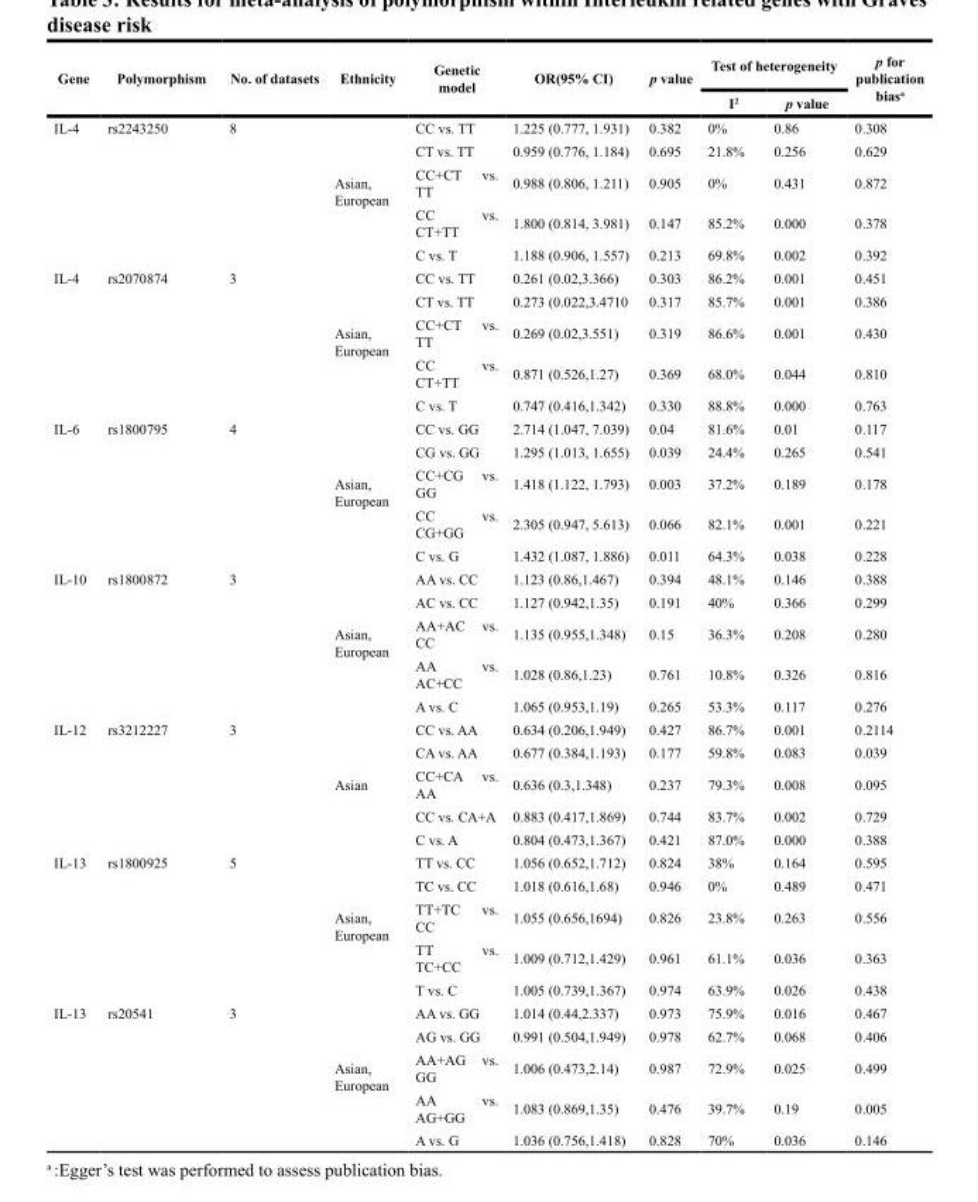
<table><thead><tr><td rowspan="2">Gene</td><td rowspan="2">Polymorphism</td><td rowspan="2">No. of datasets</td><td rowspan="2">Ethnicity</td><td rowspan="2">Genetic model</td><td rowspan="2">OR(95% CI)</td><td rowspan="2">p value</td><td colspan="2">Test of heterogeneity</td><td rowspan="2">p for publication bias<sup>a</sup></td></tr><tr><td>I<sup>2</sup></td><td>p value</td></tr></thead><tbody><tr><td rowspan="5">IL-4</td><td>rs2243250</td><td>8</td><td rowspan="5">Asian, European</td><td>CC vs. TT</td><td>1.225 (0.777, 1.931)</td><td>0.382</td><td>0%</td><td>0.86</td><td>0.308</td></tr><tr><td></td><td></td><td>CT vs. TT</td><td>0.959 (0.776, 1.184)</td><td>0.695</td><td>21.8%</td><td>0.256</td><td>0.629</td></tr><tr><td></td><td></td><td>CC+CT vs. TT</td><td>0.988 (0.806, 1.211)</td><td>0.905</td><td>0%</td><td>0.431</td><td>0.872</td></tr><tr><td></td><td></td><td>CC vs. CT+TT</td><td>1.800 (0.814, 3.981)</td><td>0.147</td><td>85.2%</td><td>0.000</td><td>0.378</td></tr><tr><td></td><td></td><td>C vs. T</td><td>1.188 (0.906, 1.557)</td><td>0.213</td><td>69.8%</td><td>0.002</td><td>0.392</td></tr><tr><td rowspan="5">IL-4</td><td>rs2070874</td><td>3</td><td rowspan="5">Asian, European</td><td>CC vs. TT</td><td>0.261 (0.02,3.366)</td><td>0.303</td><td>86.2%</td><td>0.001</td><td>0.451</td></tr><tr><td></td><td></td><td>CT vs. TT</td><td>0.273 (0.022,3.4710</td><td>0.317</td><td>85.7%</td><td>0.001</td><td>0.386</td></tr><tr><td></td><td></td><td>CC+CT vs. TT</td><td>0.269 (0.02,3.551)</td><td>0.319</td><td>86.6%</td><td>0.001</td><td>0.430</td></tr><tr><td></td><td></td><td>CC vs. CT+TT</td><td>0.871 (0.526,1.27)</td><td>0.369</td><td>68.0%</td><td>0.044</td><td>0.810</td></tr><tr><td></td><td></td><td>C vs. T</td><td>0.747 (0.416,1.342)</td><td>0.330</td><td>88.8%</td><td>0.000</td><td>0.763</td></tr><tr><td rowspan="5">IL-6</td><td>rs1800795</td><td>4</td><td rowspan="5">Asian, European</td><td>CC vs. GG</td><td>2.714 (1.047, 7.039)</td><td>0.04</td><td>81.6%</td><td>0.01</td><td>0.117</td></tr><tr><td></td><td></td><td>CG vs. GG</td><td>1.295 (1.013, 1.655)</td><td>0.039</td><td>24.4%</td><td>0.265</td><td>0.541</td></tr><tr><td></td><td></td><td>CC+CG vs. GG</td><td>1.418 (1.122, 1.793)</td><td>0.003</td><td>37.2%</td><td>0.189</td><td>0.178</td></tr><tr><td></td><td></td><td>CC vs. CG+GG</td><td>2.305 (0.947, 5.613)</td><td>0.066</td><td>82.1%</td><td>0.001</td><td>0.221</td></tr><tr><td></td><td></td><td>C vs. G</td><td>1.432 (1.087, 1.886)</td><td>0.011</td><td>64.3%</td><td>0.038</td><td>0.228</td></tr><tr><td rowspan="5">IL-10</td><td>rs1800872</td><td>3</td><td rowspan="5">Asian, European</td><td>AA vs. CC</td><td>1.123 (0.86,1.467)</td><td>0.394</td><td>48.1%</td><td>0.146</td><td>0.388</td></tr><tr><td></td><td></td><td>AC vs. CC</td><td>1.127 (0.942,1.35)</td><td>0.191</td><td>40%</td><td>0.366</td><td>0.299</td></tr><tr><td></td><td></td><td>AA+AC vs. CC</td><td>1.135 (0.955,1.348)</td><td>0.15</td><td>36.3%</td><td>0.208</td><td>0.280</td></tr><tr><td></td><td></td><td>AA vs. AC+CC</td><td>1.028 (0.86,1.23)</td><td>0.761</td><td>10.8%</td><td>0.326</td><td>0.816</td></tr><tr><td></td><td></td><td>A vs. C</td><td>1.065 (0.953,1.19)</td><td>0.265</td><td>53.3%</td><td>0.117</td><td>0.276</td></tr><tr><td rowspan="5">IL-12</td><td>rs3212227</td><td>3</td><td rowspan="5">Asian</td><td>CC vs. AA</td><td>0.634 (0.206,1.949)</td><td>0.427</td><td>86.7%</td><td>0.001</td><td>0.2114</td></tr><tr><td></td><td></td><td>CA vs. AA</td><td>0.677 (0.384,1.193)</td><td>0.177</td><td>59.8%</td><td>0.083</td><td>0.039</td></tr><tr><td></td><td></td><td>CC+CA vs. AA</td><td>0.636 (0.3,1.348)</td><td>0.237</td><td>79.3%</td><td>0.008</td><td>0.095</td></tr><tr><td></td><td></td><td>CC vs. CA+A</td><td>0.883 (0.417,1.869)</td><td>0.744</td><td>83.7%</td><td>0.002</td><td>0.729</td></tr><tr><td></td><td></td><td>C vs. A</td><td>0.804 (0.473,1.367)</td><td>0.421</td><td>87.0%</td><td>0.000</td><td>0.388</td></tr><tr><td rowspan="5">IL-13</td><td>rs1800925</td><td>5</td><td rowspan="5">Asian, European</td><td>TT vs. CC</td><td>1.056 (0.652,1.712)</td><td>0.824</td><td>38%</td><td>0.164</td><td>0.595</td></tr><tr><td></td><td></td><td>TC vs. CC</td><td>1.018 (0.616,1.68)</td><td>0.946</td><td>0%</td><td>0.489</td><td>0.471</td></tr><tr><td></td><td></td><td>TT+TC vs. CC</td><td>1.055 (0.656,1694)</td><td>0.826</td><td>23.8%</td><td>0.263</td><td>0.556</td></tr><tr><td></td><td></td><td>TT vs. TC+CC</td><td>1.009 (0.712,1.429)</td><td>0.961</td><td>61.1%</td><td>0.036</td><td>0.363</td></tr><tr><td></td><td></td><td>T vs. C</td><td>1.005 (0.739,1.367)</td><td>0.974</td><td>63.9%</td><td>0.026</td><td>0.438</td></tr><tr><td rowspan="5">IL-13</td><td>rs20541</td><td>3</td><td rowspan="5">Asian, European</td><td>AA vs. GG</td><td>1.014 (0.44,2.337)</td><td>0.973</td><td>75.9%</td><td>0.016</td><td>0.467</td></tr><tr><td></td><td></td><td>AG vs. GG</td><td>0.991 (0.504,1.949)</td><td>0.978</td><td>62.7%</td><td>0.068</td><td>0.406</td></tr><tr><td></td><td></td><td>AA+AG vs. GG</td><td>1.006 (0.473,2.14)</td><td>0.987</td><td>72.9%</td><td>0.025</td><td>0.499</td></tr><tr><td></td><td></td><td>AA vs. AG+GG</td><td>1.083 (0.869,1.35)</td><td>0.476</td><td>39.7%</td><td>0.19</td><td>0.005</td></tr><tr><td></td><td></td><td>A vs. G</td><td>1.036 (0.756,1.418)</td><td>0.828</td><td>70%</td><td>0.036</td><td>0.146</td></tr></tbody></table>